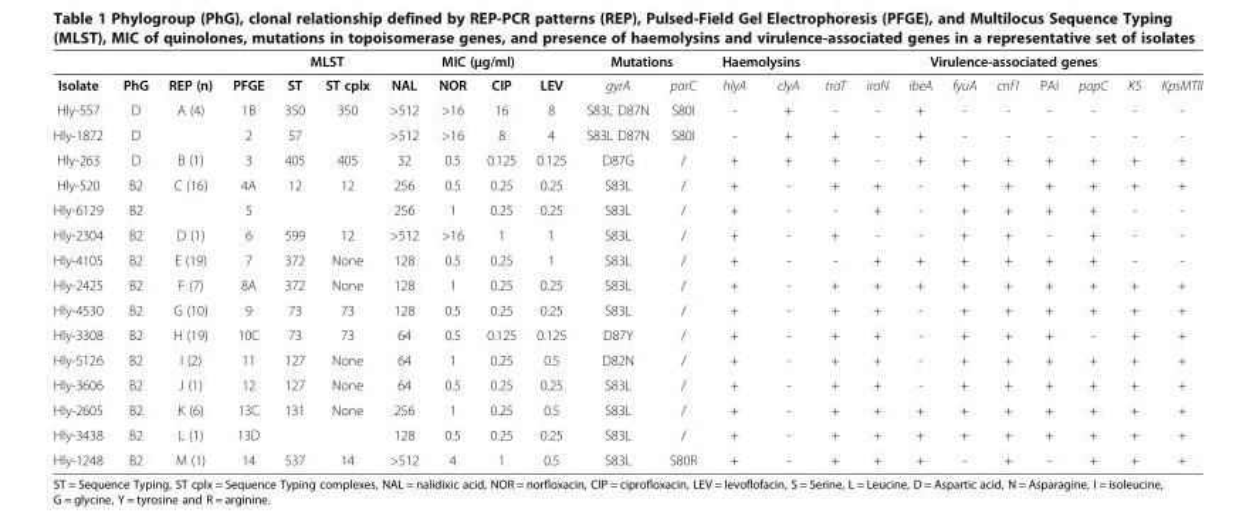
<table><thead><tr><td rowspan="2">Isolate</td><td rowspan="2">PhG</td><td rowspan="2">REP (n)</td><td rowspan="2">PFGE</td><td colspan="2">MLST</td><td colspan="4">MIC (μg/ml)</td><td colspan="2">Mutations</td><td colspan="2">Haemolysins</td><td colspan="9">Virulence-associated genes</td></tr><tr><td>ST</td><td>ST cplx</td><td>NAL</td><td>NOR</td><td>CIP</td><td>LEV</td><td>gyrA</td><td>parC</td><td>hlyA</td><td>clyA</td><td>traT</td><td>iroN</td><td>ibeA</td><td>fyuA</td><td>cnf1</td><td>PAI</td><td>papC</td><td>K5</td><td>KpsMTII</td></tr></thead><tbody><tr><td>Hly-557</td><td>D</td><td rowspan="2">A (4)</td><td>1B</td><td>350</td><td rowspan="2">350</td><td>&gt;512</td><td>&gt;16</td><td>16</td><td>8</td><td>S83L D87N</td><td>S80I</td><td>-</td><td>+</td><td>-</td><td>-</td><td>+</td><td>-</td><td>-</td><td>-</td><td>-</td><td>-</td><td>-</td></tr><tr><td>Hly-1872</td><td>D</td><td>2</td><td>57</td><td>&gt;512</td><td>&gt;16</td><td>8</td><td>4</td><td>S83L D87N</td><td>S80I</td><td>-</td><td>+</td><td>+</td><td>-</td><td>+</td><td>-</td><td>-</td><td>-</td><td>-</td><td>-</td><td>-</td></tr><tr><td>Hly-263</td><td>D</td><td>B (1)</td><td>3</td><td>405</td><td>405</td><td>32</td><td>0.5</td><td>0.125</td><td>0.125</td><td>D87G</td><td>/</td><td>+</td><td>+</td><td>+</td><td>-</td><td>+</td><td>+</td><td>+</td><td>+</td><td>+</td><td>+</td><td>+</td></tr><tr><td>Hly-520</td><td>B2</td><td rowspan="2">C (16)</td><td>4A</td><td rowspan="2">12</td><td rowspan="2">12</td><td>256</td><td>0.5</td><td>0.25</td><td>0.25</td><td>S83L</td><td>/</td><td>+</td><td>-</td><td>+</td><td>+</td><td>-</td><td>+</td><td>+</td><td>+</td><td>+</td><td>+</td><td>+</td></tr><tr><td>Hly-6129</td><td>B2</td><td>5</td><td>256</td><td>1</td><td>0.25</td><td>0.25</td><td>S83L</td><td>/</td><td>+</td><td>-</td><td>-</td><td>+</td><td>-</td><td>+</td><td>+</td><td>+</td><td>+</td><td>-</td><td>-</td></tr><tr><td>Hly-2304</td><td>B2</td><td>D (1)</td><td>6</td><td>599</td><td>12</td><td>&gt;512</td><td>&gt;16</td><td>1</td><td>1</td><td>S83L</td><td>/</td><td>+</td><td>-</td><td>+</td><td>-</td><td>-</td><td>+</td><td>+</td><td>-</td><td>+</td><td>-</td><td>-</td></tr><tr><td>Hly-4105</td><td>B2</td><td>E (19)</td><td>7</td><td>372</td><td>None</td><td>128</td><td>0.5</td><td>0.25</td><td>1</td><td>S83L</td><td>/</td><td>+</td><td>-</td><td>-</td><td>+</td><td>+</td><td>+</td><td>+</td><td>+</td><td>+</td><td>-</td><td>-</td></tr><tr><td>Hly-2425</td><td>B2</td><td>F (7)</td><td>8A</td><td>372</td><td>None</td><td>128</td><td>1</td><td>0.25</td><td>0.25</td><td>S83L</td><td>/</td><td>+</td><td>-</td><td>+</td><td>+</td><td>+</td><td>+</td><td>+</td><td>+</td><td>+</td><td>+</td><td>+</td></tr><tr><td>Hly-4530</td><td>B2</td><td>G (10)</td><td>9</td><td>73</td><td>73</td><td>128</td><td>0.5</td><td>0.25</td><td>0.25</td><td>S83L</td><td>/</td><td>+</td><td>-</td><td>+</td><td>+</td><td>-</td><td>+</td><td>+</td><td>+</td><td>+</td><td>+</td><td>+</td></tr><tr><td>Hly-3308</td><td>B2</td><td>H (19)</td><td>10C</td><td>73</td><td>73</td><td>64</td><td>0.5</td><td>0.125</td><td>0.125</td><td>D87Y</td><td>/</td><td>+</td><td>-</td><td>+</td><td>+</td><td>-</td><td>+</td><td>+</td><td>+</td><td>-</td><td>+</td><td>+</td></tr><tr><td>Hly-5126</td><td>B2</td><td>I (2)</td><td>11</td><td>127</td><td>None</td><td>64</td><td>1</td><td>0.25</td><td>0.5</td><td>D82N</td><td>/</td><td>+</td><td>-</td><td>+</td><td>+</td><td>-</td><td>+</td><td>+</td><td>+</td><td>+</td><td>+</td><td>+</td></tr><tr><td>Hly-3606</td><td>B2</td><td>J (1)</td><td>12</td><td>127</td><td>None</td><td>64</td><td>0.5</td><td>0.25</td><td>0.25</td><td>S83L</td><td>/</td><td>+</td><td>-</td><td>+</td><td>+</td><td>-</td><td>+</td><td>+</td><td>+</td><td>+</td><td>+</td><td>+</td></tr><tr><td>Hly-2605</td><td>B2</td><td>K (6)</td><td>13C</td><td rowspan="2">131</td><td rowspan="2">None</td><td>256</td><td>1</td><td>0.25</td><td>0.5</td><td>S83L</td><td>/</td><td>+</td><td>-</td><td>+</td><td>+</td><td>+</td><td>+</td><td>+</td><td>+</td><td>+</td><td>+</td><td>+</td></tr><tr><td>Hly-3438</td><td>B2</td><td>L (1)</td><td>13D</td><td>128</td><td>0.5</td><td>0.25</td><td>0.25</td><td>S83L</td><td>/</td><td>+</td><td>-</td><td>+</td><td>+</td><td>+</td><td>+</td><td>+</td><td>+</td><td>+</td><td>+</td><td>+</td></tr><tr><td>Hly-1248</td><td>B2</td><td>M (1)</td><td>14</td><td>537</td><td>14</td><td>&gt;512</td><td>4</td><td>1</td><td>0.5</td><td>S83L</td><td>S80R</td><td>+</td><td>-</td><td>+</td><td>+</td><td>+</td><td>-</td><td>+</td><td>-</td><td>+</td><td>+</td><td>+</td></tr></tbody></table>